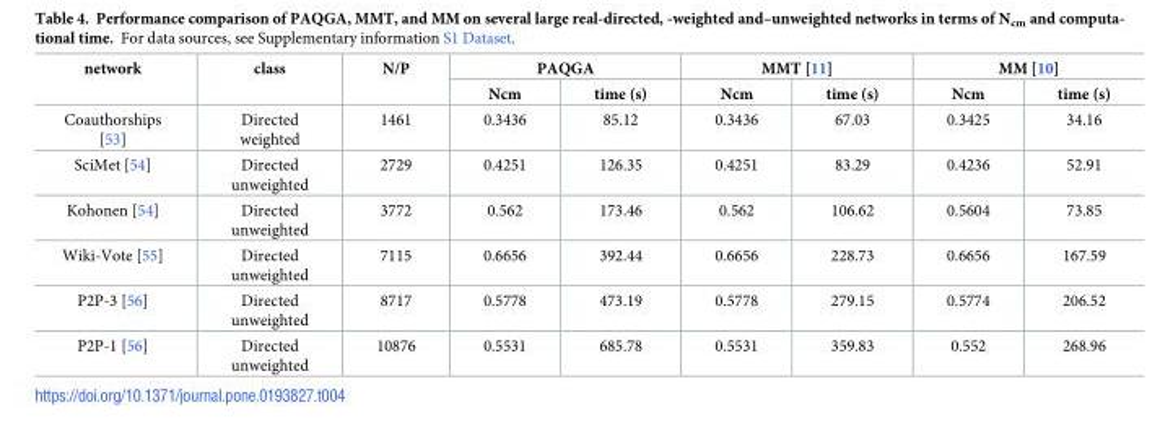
<table><thead><tr><td rowspan="2">network</td><td rowspan="2">class</td><td rowspan="2">N/P</td><td colspan="2">PAQGA</td><td colspan="2">MMT [11]</td><td colspan="2">MM [10]</td></tr><tr><td>Ncm</td><td>time (s)</td><td>Ncm</td><td>time (s)</td><td>Ncm</td><td>time (s)</td></tr></thead><tbody><tr><td>Coauthorships [53]</td><td>Directed weighted</td><td>1461</td><td>0.3436</td><td>85.12</td><td>0.3436</td><td>67.03</td><td>0.3425</td><td>34.16</td></tr><tr><td>SciMet [54]</td><td>Directed unweighted</td><td>2729</td><td>0.4251</td><td>126.35</td><td>0.4251</td><td>83.29</td><td>0.4236</td><td>52.91</td></tr><tr><td>Kohonen [54]</td><td>Directed unweighted</td><td>3772</td><td>0.562</td><td>173.46</td><td>0.562</td><td>106.62</td><td>0.5604</td><td>73.85</td></tr><tr><td>Wiki-Vote [55]</td><td>Directed unweighted</td><td>7115</td><td>0.6656</td><td>392.44</td><td>0.6656</td><td>228.73</td><td>0.6656</td><td>167.59</td></tr><tr><td>P2P-3 [56]</td><td>Directed unweighted</td><td>8717</td><td>0.5778</td><td>473.19</td><td>0.5778</td><td>279.15</td><td>0.5774</td><td>206.52</td></tr><tr><td>P2P-1 [56]</td><td>Directed unweighted</td><td>10876</td><td>0.5531</td><td>685.78</td><td>0.5531</td><td>359.83</td><td>0.552</td><td>268.96</td></tr></tbody></table>